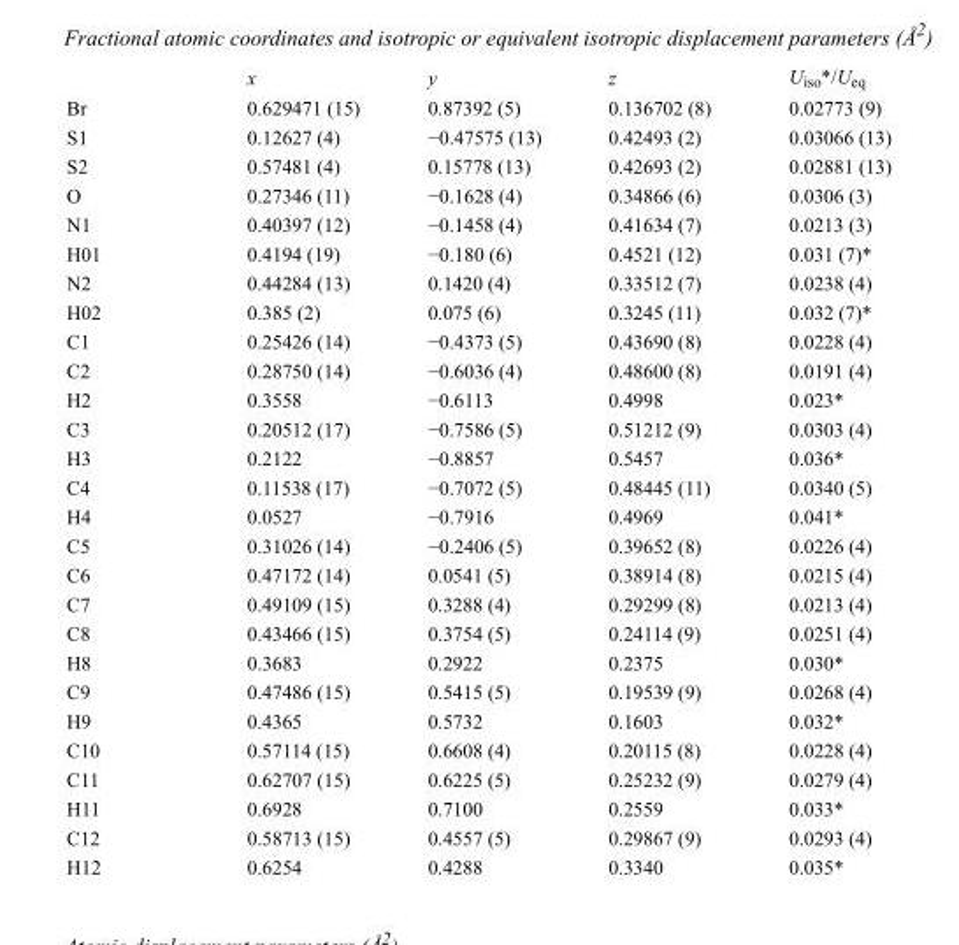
<table><thead><tr><td></td><td>x</td><td>y</td><td>z</td><td>U<sub>iso</sub>*/U<sub>eq</sub></td></tr></thead><tbody><tr><td>Br</td><td>0.629471 (15)</td><td>0.87392 (5)</td><td>0.136702 (8)</td><td>0.02773 (9)</td></tr><tr><td>S1</td><td>0.12627 (4)</td><td>−0.47575 (13)</td><td>0.42493 (2)</td><td>0.03066 (13)</td></tr><tr><td>S2</td><td>0.57481 (4)</td><td>0.15778 (13)</td><td>0.42693 (2)</td><td>0.02881 (13)</td></tr><tr><td>O</td><td>0.27346 (11)</td><td>−0.1628 (4)</td><td>0.34866 (6)</td><td>0.0306 (3)</td></tr><tr><td>N1</td><td>0.40397 (12)</td><td>−0.1458 (4)</td><td>0.41634 (7)</td><td>0.0213 (3)</td></tr><tr><td>H01</td><td>0.4194 (19)</td><td>−0.180 (6)</td><td>0.4521 (12)</td><td>0.031 (7)*</td></tr><tr><td>N2</td><td>0.44284 (13)</td><td>0.1420 (4)</td><td>0.33512 (7)</td><td>0.0238 (4)</td></tr><tr><td>H02</td><td>0.385 (2)</td><td>0.075 (6)</td><td>0.3245 (11)</td><td>0.032 (7)*</td></tr><tr><td>C1</td><td>0.25426 (14)</td><td>−0.4373 (5)</td><td>0.43690 (8)</td><td>0.0228 (4)</td></tr><tr><td>C2</td><td>0.28750 (14)</td><td>−0.6036 (4)</td><td>0.48600 (8)</td><td>0.0191 (4)</td></tr><tr><td>H2</td><td>0.3558</td><td>−0.6113</td><td>0.4998</td><td>0.023*</td></tr><tr><td>C3</td><td>0.20512 (17)</td><td>−0.7586 (5)</td><td>0.51212 (9)</td><td>0.0303 (4)</td></tr><tr><td>H3</td><td>0.2122</td><td>−0.8857</td><td>0.5457</td><td>0.036*</td></tr><tr><td>C4</td><td>0.11538 (17)</td><td>−0.7072 (5)</td><td>0.48445 (11)</td><td>0.0340 (5)</td></tr><tr><td>H4</td><td>0.0527</td><td>−0.7916</td><td>0.4969</td><td>0.041*</td></tr><tr><td>C5</td><td>0.31026 (14)</td><td>−0.2406 (5)</td><td>0.39652 (8)</td><td>0.0226 (4)</td></tr><tr><td>C6</td><td>0.47172 (14)</td><td>0.0541 (5)</td><td>0.38914 (8)</td><td>0.0215 (4)</td></tr><tr><td>C7</td><td>0.49109 (15)</td><td>0.3288 (4)</td><td>0.29299 (8)</td><td>0.0213 (4)</td></tr><tr><td>C8</td><td>0.43466 (15)</td><td>0.3754 (5)</td><td>0.24114 (9)</td><td>0.0251 (4)</td></tr><tr><td>H8</td><td>0.3683</td><td>0.2922</td><td>0.2375</td><td>0.030*</td></tr><tr><td>C9</td><td>0.47486 (15)</td><td>0.5415 (5)</td><td>0.19539 (9)</td><td>0.0268 (4)</td></tr><tr><td>H9</td><td>0.4365</td><td>0.5732</td><td>0.1603</td><td>0.032*</td></tr><tr><td>C10</td><td>0.57114 (15)</td><td>0.6608 (4)</td><td>0.20115 (8)</td><td>0.0228 (4)</td></tr><tr><td>C11</td><td>0.62707 (15)</td><td>0.6225 (5)</td><td>0.25232 (9)</td><td>0.0279 (4)</td></tr><tr><td>H11</td><td>0.6928</td><td>0.7100</td><td>0.2559</td><td>0.033*</td></tr><tr><td>C12</td><td>0.58713 (15)</td><td>0.4557 (5)</td><td>0.29867 (9)</td><td>0.0293 (4)</td></tr><tr><td>H12</td><td>0.6254</td><td>0.4288</td><td>0.3340</td><td>0.035*</td></tr></tbody></table>